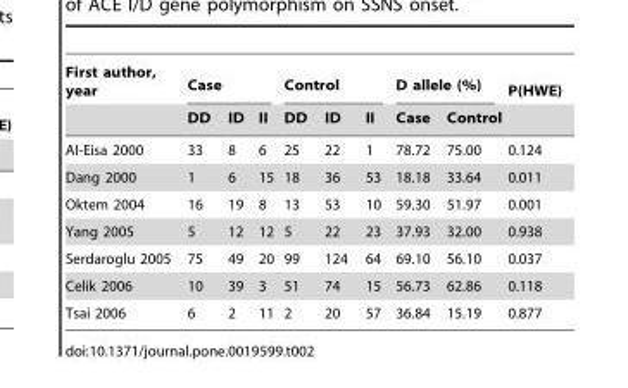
<table><thead><tr><td rowspan="2">First author, year</td><td colspan="3">Case</td><td colspan="3">Control</td><td colspan="2">D allele (%)</td><td rowspan="2">P(HWE)</td></tr><tr><td>DD</td><td>ID</td><td>II</td><td>DD</td><td>ID</td><td>II</td><td>Case</td><td>Control</td></tr></thead><tbody><tr><td>AI-Eisa 2000</td><td>33</td><td>8</td><td>6</td><td>25</td><td>22</td><td>1</td><td>78.72</td><td>75.00</td><td>0.124</td></tr><tr><td>Dang 2000</td><td>1</td><td>6</td><td>15</td><td>18</td><td>36</td><td>53</td><td>18.18</td><td>33.64</td><td>0.011</td></tr><tr><td>Oktem 2004</td><td>16</td><td>19</td><td>8</td><td>13</td><td>53</td><td>10</td><td>59.30</td><td>51.97</td><td>0.001</td></tr><tr><td>Yang 2005</td><td>5</td><td>12</td><td>12</td><td>5</td><td>22</td><td>23</td><td>37.93</td><td>32.00</td><td>0.938</td></tr><tr><td>Serdaroglu 2005</td><td>75</td><td>49</td><td>20</td><td>99</td><td>124</td><td>64</td><td>69.10</td><td>56.10</td><td>0.037</td></tr><tr><td>Celik 2006</td><td>10</td><td>39</td><td>3</td><td>51</td><td>74</td><td>15</td><td>56.73</td><td>62.86</td><td>0.118</td></tr><tr><td>Tsai 2006</td><td>6</td><td>2</td><td>11</td><td>2</td><td>20</td><td>57</td><td>36.84</td><td>15.19</td><td>0.877</td></tr></tbody></table>